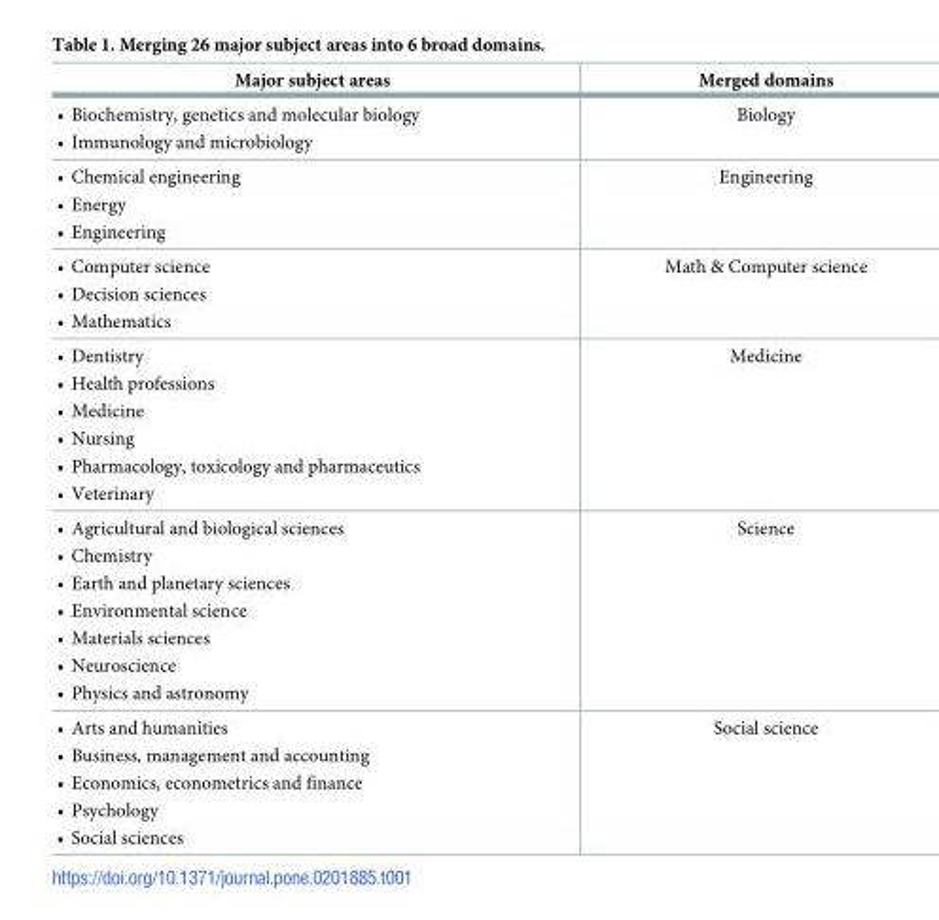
<table><thead><tr><td>Major subject areas</td><td>Merged domains</td></tr></thead><tbody><tr><td>Biochemistry, genetics and molecular biology Immunology and microbiology</td><td>Biology</td></tr><tr><td>Chemical engineering Energy Engineering</td><td>Engineering</td></tr><tr><td>Computer science Decision sciences Mathematics</td><td>Math &amp; Computer science</td></tr><tr><td>Dentistry Health professions Medicine Nursing Pharmacology, toxicology and pharmaceutics Veterinary</td><td>Medicine</td></tr><tr><td>Agricultural and biological sciences Chemistry Earth and planetary sciences Environmental science Materials sciences Neuroscience Physics and astronomy</td><td>Science</td></tr><tr><td>Arts and humanities Business, management and accounting Economics, econometrics and finance Psychology Social sciences</td><td>Social science</td></tr></tbody></table>